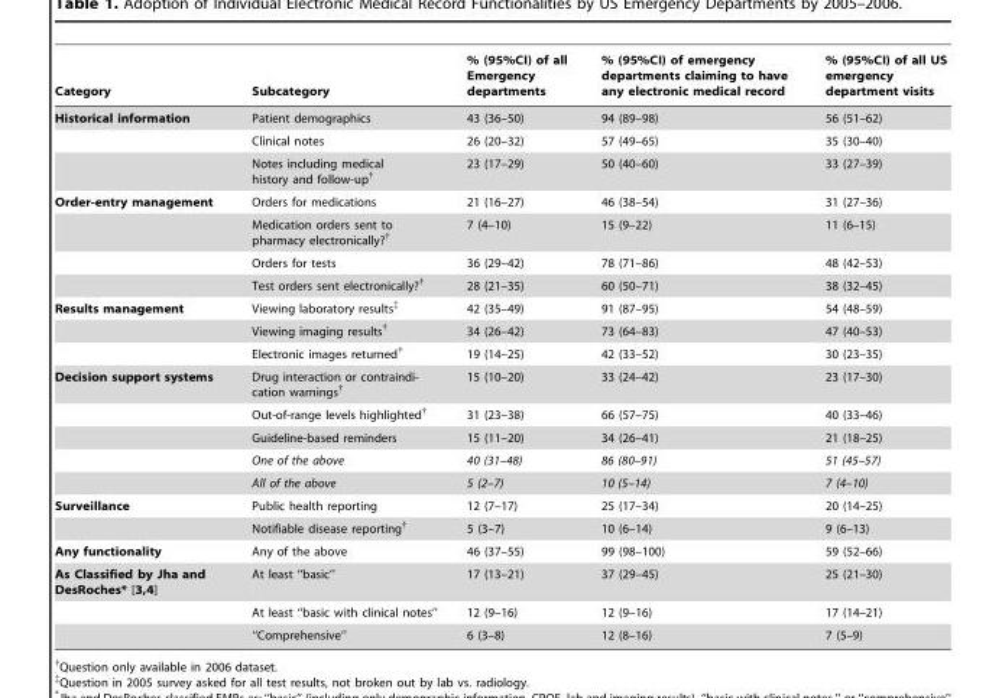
<table><thead><tr><td>Category</td><td>Subcategory</td><td>% (95%CI) of all Emergency departments</td><td>% (95%CI) of emergency departments claiming to have any electronic medical record</td><td>% (95%CI) of all US emergency department visits</td></tr></thead><tbody><tr><td rowspan="3">Historical information</td><td>Patient demographics</td><td>43 (36–50)</td><td>94 (89–98)</td><td>56 (51–62)</td></tr><tr><td>Clinical notes</td><td>26 (20–32)</td><td>57 (49–65)</td><td>35 (30–40)</td></tr><tr><td>Notes including medical history and follow-up†</td><td>23 (17–29)</td><td>50 (40–60)</td><td>33 (27–39)</td></tr><tr><td rowspan="4">Order-entry management</td><td>Orders for medications</td><td>21 (16–27)</td><td>46 (38–54)</td><td>31 (27–36)</td></tr><tr><td>Medication orders sent to pharmacy electronically?†</td><td>7 (4–10)</td><td>15 (9–22)</td><td>11 (6–15)</td></tr><tr><td>Orders for tests</td><td>36 (29–42)</td><td>78 (71–86)</td><td>48 (42–53)</td></tr><tr><td>Test orders sent electronically?†</td><td>28 (21–35)</td><td>60 (50–71)</td><td>38 (32–45)</td></tr><tr><td rowspan="3">Results management</td><td>Viewing laboratory results‡</td><td>42 (35–49)</td><td>91 (87–95)</td><td>54 (48–59)</td></tr><tr><td>Viewing imaging results†</td><td>34 (26–42)</td><td>73 (64–83)</td><td>47 (40–53)</td></tr><tr><td>Electronic images returned†</td><td>19 (14–25)</td><td>42 (33–52)</td><td>30 (23–35)</td></tr><tr><td rowspan="5">Decision support systems</td><td>Drug interaction or contraindi- cation warnings{</td><td>15 (10–20)</td><td>33 (24–42)</td><td>23 (17–30)</td></tr><tr><td>Out-of-range levels highlighted†</td><td>31 (23–38)</td><td>66 (57–75)</td><td>40 (33–46)</td></tr><tr><td>Guideline-based reminders</td><td>15 (11–20)</td><td>34 (26–41)</td><td>21 (18–25)</td></tr><tr><td>One of the above</td><td>40 (31–48)</td><td>86 (80–91)</td><td>51 (45–57)</td></tr><tr><td>All of the above</td><td>5 (2–7)</td><td>10 (5–14)</td><td>7 (4–10)</td></tr><tr><td rowspan="2">Surveillance</td><td>Public health reporting</td><td>12 (7–17)</td><td>25 (17–34)</td><td>20 (14–25)</td></tr><tr><td>Notifiable disease reporting†</td><td>5 (3–7)</td><td>10 (6–14)</td><td>9 (6–13)</td></tr><tr><td>Any functionality</td><td>Any of the above</td><td>46 (37–55)</td><td>99 (98–100)</td><td>59 (52–66)</td></tr><tr><td rowspan="3">As Classified by Jha and DesRoches* [3,4]</td><td>At least ‘‘basic’’</td><td>17 (13–21)</td><td>37 (29–45)</td><td>25 (21–30)</td></tr><tr><td>At least ‘‘basic with clinical notes’’</td><td>12 (9–16)</td><td>12 (9–16)</td><td>17 (14–21)</td></tr><tr><td>‘‘Comprehensive’’</td><td>6 (3–8)</td><td>12 (8–16)</td><td>7 (5–9)</td></tr></tbody></table>